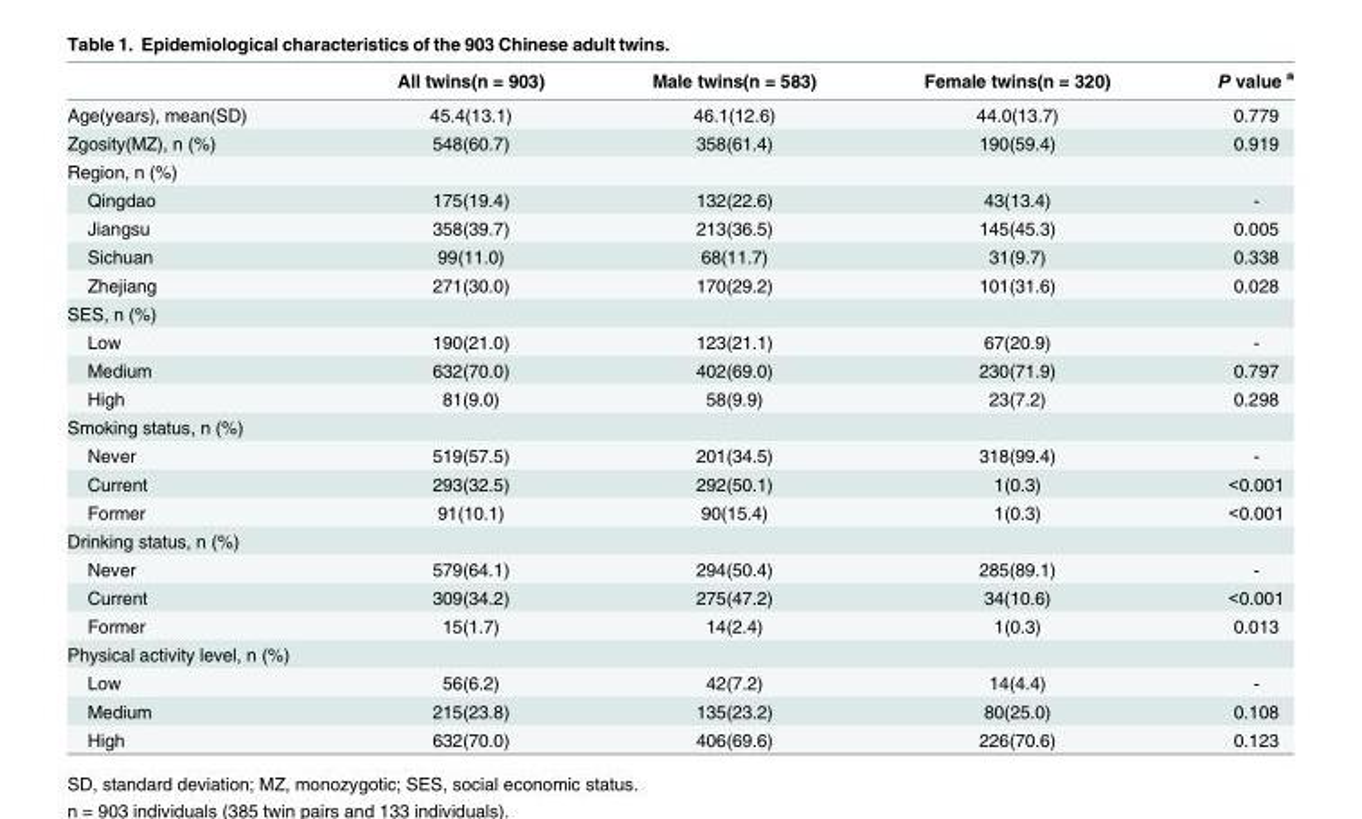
<table><thead><tr><td></td><td>All twins(n = 903)</td><td>Male twins(n = 583)</td><td>Female twins(n = 320)</td><td>P value <sup>a</sup></td></tr></thead><tbody><tr><td>Age(years), mean(SD)</td><td>45.4(13.1)</td><td>46.1(12.6)</td><td>44.0(13.7)</td><td>0.779</td></tr><tr><td>Zgosity(MZ), n (%)</td><td>548(60.7)</td><td>358(61.4)</td><td>190(59.4)</td><td>0.919</td></tr><tr><td colspan="5">Region, n (%)</td></tr><tr><td>Qingdao</td><td>175(19.4)</td><td>132(22.6)</td><td>43(13.4)</td><td>-</td></tr><tr><td>Jiangsu</td><td>358(39.7)</td><td>213(36.5)</td><td>145(45.3)</td><td>0.005</td></tr><tr><td>Sichuan</td><td>99(11.0)</td><td>68(11.7)</td><td>31(9.7)</td><td>0.338</td></tr><tr><td>Zhejiang</td><td>271(30.0)</td><td>170(29.2)</td><td>101(31.6)</td><td>0.028</td></tr><tr><td colspan="5">SES, n (%)</td></tr><tr><td>Low</td><td>190(21.0)</td><td>123(21.1)</td><td>67(20.9)</td><td>-</td></tr><tr><td>Medium</td><td>632(70.0)</td><td>402(69.0)</td><td>230(71.9)</td><td>0.797</td></tr><tr><td>High</td><td>81(9.0)</td><td>58(9.9)</td><td>23(7.2)</td><td>0.298</td></tr><tr><td colspan="5">Smoking status, n (%)</td></tr><tr><td>Never</td><td>519(57.5)</td><td>201(34.5)</td><td>318(99.4)</td><td>-</td></tr><tr><td>Current</td><td>293(32.5)</td><td>292(50.1)</td><td>1(0.3)</td><td>&lt;0.001</td></tr><tr><td>Former</td><td>91(10.1)</td><td>90(15.4)</td><td>1(0.3)</td><td>&lt;0.001</td></tr><tr><td colspan="5">Drinking status, n (%)</td></tr><tr><td>Never</td><td>579(64.1)</td><td>294(50.4)</td><td>285(89.1)</td><td>-</td></tr><tr><td>Current</td><td>309(34.2)</td><td>275(47.2)</td><td>34(10.6)</td><td>&lt;0.001</td></tr><tr><td>Former</td><td>15(1.7)</td><td>14(2.4)</td><td>1(0.3)</td><td>0.013</td></tr><tr><td colspan="5">Physical activity level, n (%)</td></tr><tr><td>Low</td><td>56(6.2)</td><td>42(7.2)</td><td>14(4.4)</td><td>-</td></tr><tr><td>Medium</td><td>215(23.8)</td><td>135(23.2)</td><td>80(25.0)</td><td>0.108</td></tr><tr><td>High</td><td>632(70.0)</td><td>406(69.6)</td><td>226(70.6)</td><td>0.123</td></tr></tbody></table>